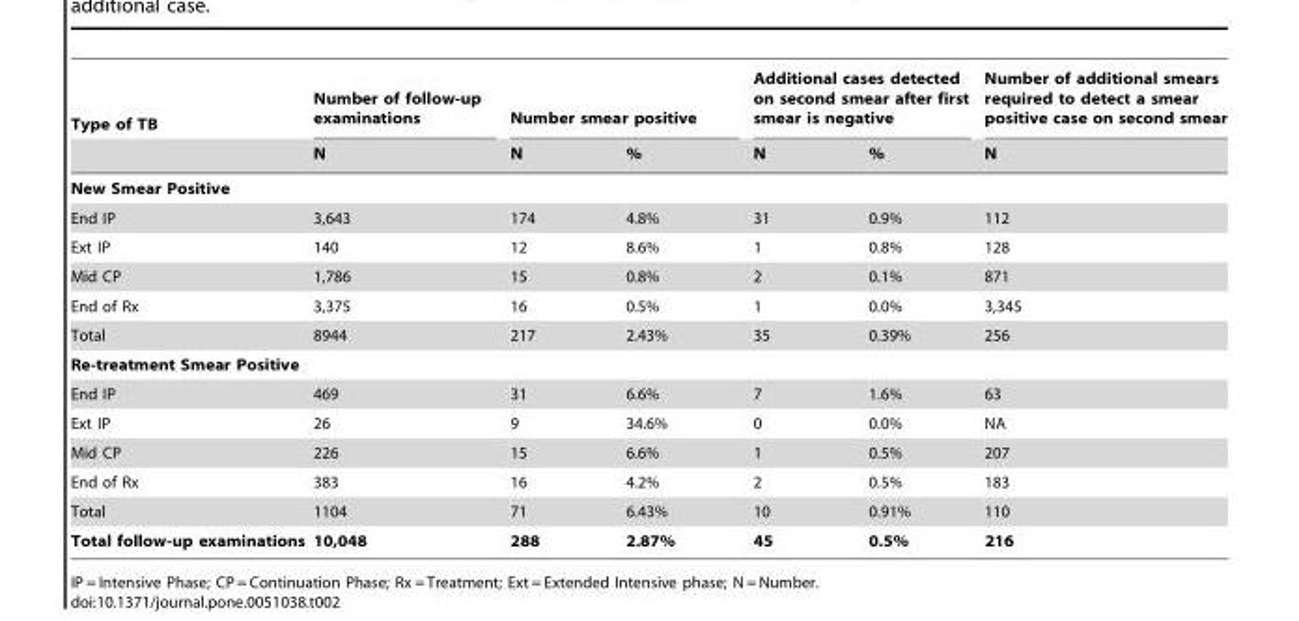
<table><thead><tr><td rowspan="2">Type of TB</td><td rowspan="2">Number of follow-up examinations N</td><td colspan="2">Number smear positive</td><td colspan="2">Additional cases detected on second smear after first smear is negative</td><td rowspan="2">Number of additional smears required to detect a smear positive case on second smear N</td></tr><tr><td>N</td><td>%</td><td>N</td><td>%</td></tr></thead><tbody><tr><td colspan="7">New Smear Positive</td></tr><tr><td>End IP</td><td>3,643</td><td>174</td><td>4.8%</td><td>31</td><td>0.9%</td><td>112</td></tr><tr><td>Ext IP</td><td>140</td><td>12</td><td>8.6%</td><td>1</td><td>0.8%</td><td>128</td></tr><tr><td>Mid CP</td><td>1,786</td><td>15</td><td>0.8%</td><td>2</td><td>0.1%</td><td>871</td></tr><tr><td>End of Rx</td><td>3,375</td><td>16</td><td>0.5%</td><td>1</td><td>0.0%</td><td>3,345</td></tr><tr><td>Total</td><td>8944</td><td>217</td><td>2.43%</td><td>35</td><td>0.39%</td><td>256</td></tr><tr><td colspan="7">Re-treatment Smear Positive</td></tr><tr><td>End IP</td><td>469</td><td>31</td><td>6.6%</td><td>7</td><td>1.6%</td><td>63</td></tr><tr><td>Ext IP</td><td>26</td><td>9</td><td>34.6%</td><td>0</td><td>0.0%</td><td>NA</td></tr><tr><td>Mid CP</td><td>226</td><td>15</td><td>6.6%</td><td>1</td><td>0.5%</td><td>207</td></tr><tr><td>End of Rx</td><td>383</td><td>16</td><td>4.2%</td><td>2</td><td>0.5%</td><td>183</td></tr><tr><td>Total</td><td>1104</td><td>71</td><td>6.43%</td><td>10</td><td>0.91%</td><td>110</td></tr><tr><td>Total follow-up examinations</td><td>10,048</td><td>288</td><td>2.87%</td><td>45</td><td>0.5%</td><td>216</td></tr></tbody></table>